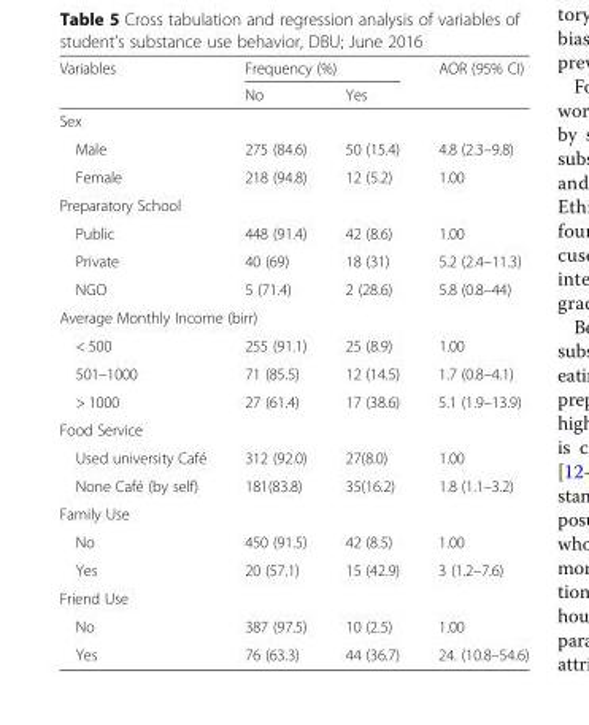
<table><thead><tr><td rowspan="2">Variables</td><td colspan="2">Frequency (%)</td><td rowspan="2">AOR (95% CI)</td></tr><tr><td>No</td><td>Yes</td></tr></thead><tbody><tr><td colspan="4">Sex</td></tr><tr><td>Male</td><td>275 (84.6)</td><td>50 (15.4)</td><td>4.8 (2.3–9.8)</td></tr><tr><td>Female</td><td>218 (94.8)</td><td>12 (5.2)</td><td>1.00</td></tr><tr><td colspan="4">Preparatory School</td></tr><tr><td>Public</td><td>448 (91.4)</td><td>42 (8.6)</td><td>1.00</td></tr><tr><td>Private</td><td>40 (69)</td><td>18 (31)</td><td>5.2 (2.4–11.3)</td></tr><tr><td>NGO</td><td>5 (71.4)</td><td>2 (28.6)</td><td>5.8 (0.8–44)</td></tr><tr><td colspan="4">Average Monthly Income (birr)</td></tr><tr><td>&lt; 500</td><td>255 (91.1)</td><td>25 (8.9)</td><td>1.00</td></tr><tr><td>501–1000</td><td>71 (85.5)</td><td>12 (14.5)</td><td>1.7 (0.8–4.1)</td></tr><tr><td>&gt; 1000</td><td>27 (61.4)</td><td>17 (38.6)</td><td>5.1 (1.9–13.9)</td></tr><tr><td colspan="4">Food Service</td></tr><tr><td>Used university Café</td><td>312 (92.0)</td><td>27(8.0)</td><td>1.00</td></tr><tr><td>None Café (by self)</td><td>181(83.8)</td><td>35(16.2)</td><td>1.8 (1.1–3.2)</td></tr><tr><td colspan="4">Family Use</td></tr><tr><td>No</td><td>450 (91.5)</td><td>42 (8.5)</td><td>1.00</td></tr><tr><td>Yes</td><td>20 (57.1)</td><td>15 (42.9)</td><td>3 (1.2–7.6)</td></tr><tr><td colspan="4">Friend Use</td></tr><tr><td>No</td><td>387 (97.5)</td><td>10 (2.5)</td><td>1.00</td></tr><tr><td>Yes</td><td>76 (63.3)</td><td>44 (36.7)</td><td>24. (10.8–54.6)</td></tr></tbody></table>